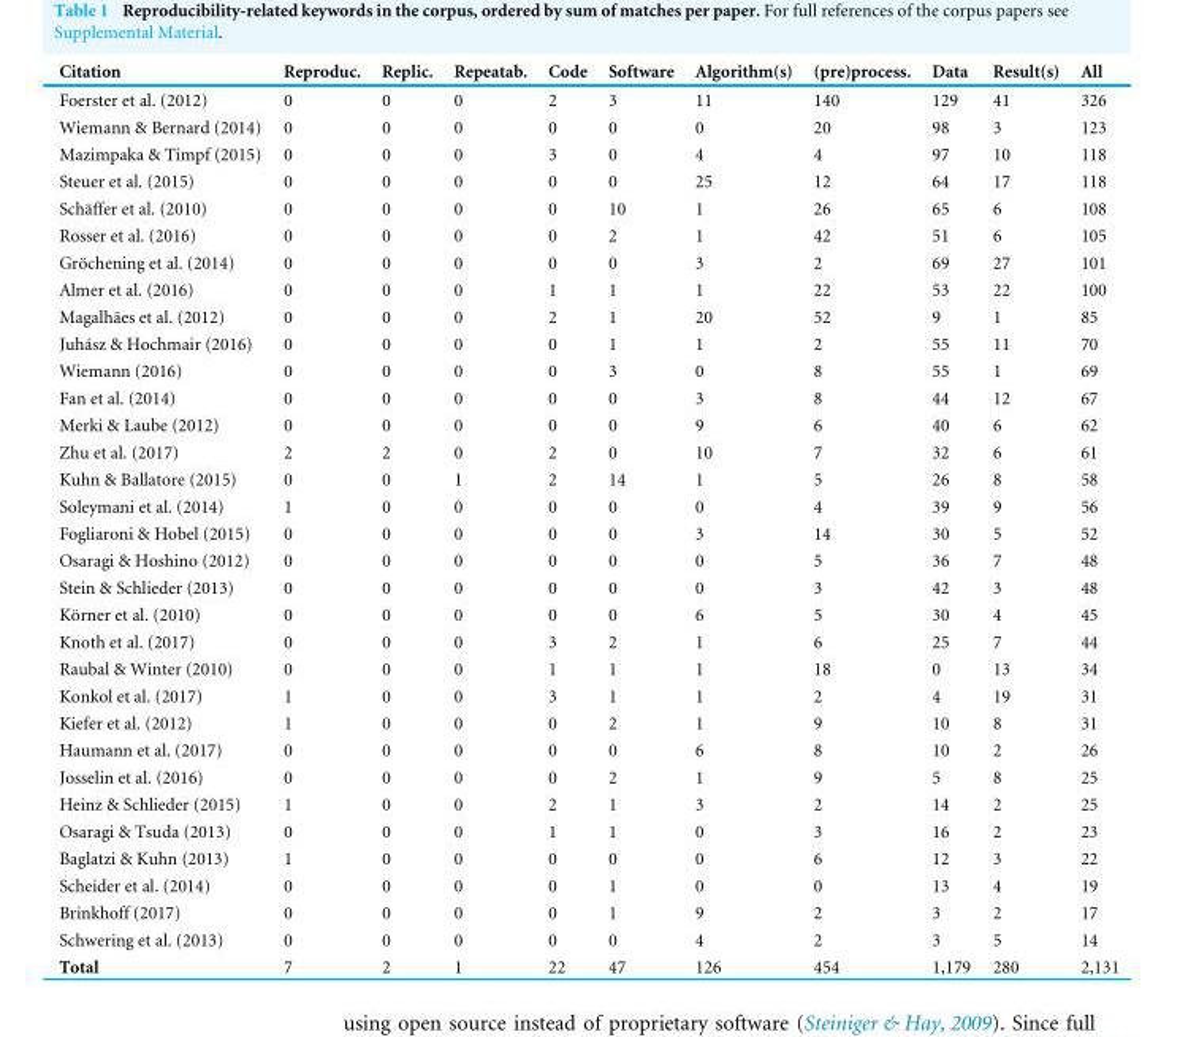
<table><thead><tr><td>Citation</td><td>Reproduc.</td><td>Replic.</td><td>Repeatab.</td><td>Code</td><td>Software</td><td>Algorithm(s)</td><td>(pre)process.</td><td>Data</td><td>Result(s)</td><td>All</td></tr></thead><tbody><tr><td>Foerster et al. (2012)</td><td>0</td><td>0</td><td>0</td><td>2</td><td>3</td><td>11</td><td>140</td><td>129</td><td>41</td><td>326</td></tr><tr><td>Wiemann &amp; Bernard (2014)</td><td>0</td><td>0</td><td>0</td><td>0</td><td>0</td><td>0</td><td>20</td><td>98</td><td>3</td><td>123</td></tr><tr><td>Mazimpaka &amp; Timpf (2015)</td><td>0</td><td>0</td><td>0</td><td>3</td><td>0</td><td>4</td><td>4</td><td>97</td><td>10</td><td>118</td></tr><tr><td>Steuer et al. (2015)</td><td>0</td><td>0</td><td>0</td><td>0</td><td>0</td><td>25</td><td>12</td><td>64</td><td>17</td><td>118</td></tr><tr><td>Schäffer et al. (2010)</td><td>0</td><td>0</td><td>0</td><td>0</td><td>10</td><td>1</td><td>26</td><td>65</td><td>6</td><td>108</td></tr><tr><td>Rosser et al. (2016)</td><td>0</td><td>0</td><td>0</td><td>0</td><td>2</td><td>1</td><td>42</td><td>51</td><td>6</td><td>105</td></tr><tr><td>Gröchening et al. (2014)</td><td>0</td><td>0</td><td>0</td><td>0</td><td>0</td><td>3</td><td>2</td><td>69</td><td>27</td><td>101</td></tr><tr><td>Almer et al. (2016)</td><td>0</td><td>0</td><td>0</td><td>1</td><td>1</td><td>1</td><td>22</td><td>53</td><td>22</td><td>100</td></tr><tr><td>Magalhães et al. (2012)</td><td>0</td><td>0</td><td>0</td><td>2</td><td>1</td><td>20</td><td>52</td><td>9</td><td>1</td><td>85</td></tr><tr><td>Juhász &amp; Hochmair (2016)</td><td>0</td><td>0</td><td>0</td><td>0</td><td>1</td><td>1</td><td>2</td><td>55</td><td>11</td><td>70</td></tr><tr><td>Wiemann (2016)</td><td>0</td><td>0</td><td>0</td><td>0</td><td>3</td><td>0</td><td>8</td><td>55</td><td>1</td><td>69</td></tr><tr><td>Fan et al. (2014)</td><td>0</td><td>0</td><td>0</td><td>0</td><td>0</td><td>3</td><td>8</td><td>44</td><td>12</td><td>67</td></tr><tr><td>Merki &amp; Laube (2012)</td><td>0</td><td>0</td><td>0</td><td>0</td><td>0</td><td>9</td><td>6</td><td>40</td><td>6</td><td>62</td></tr><tr><td>Zhu et al. (2017)</td><td>2</td><td>2</td><td>0</td><td>2</td><td>0</td><td>10</td><td>7</td><td>32</td><td>6</td><td>61</td></tr><tr><td>Kuhn &amp; Ballatore (2015)</td><td>0</td><td>0</td><td>1</td><td>2</td><td>14</td><td>1</td><td>5</td><td>26</td><td>8</td><td>58</td></tr><tr><td>Soleymani et al. (2014)</td><td>1</td><td>0</td><td>0</td><td>0</td><td>0</td><td>0</td><td>4</td><td>39</td><td>9</td><td>56</td></tr><tr><td>Fogliaroni &amp; Hobel (2015)</td><td>0</td><td>0</td><td>0</td><td>0</td><td>0</td><td>3</td><td>14</td><td>30</td><td>5</td><td>52</td></tr><tr><td>Osaragi &amp; Hoshino (2012)</td><td>0</td><td>0</td><td>0</td><td>0</td><td>0</td><td>0</td><td>5</td><td>36</td><td>7</td><td>48</td></tr><tr><td>Stein &amp; Schlieder (2013)</td><td>0</td><td>0</td><td>0</td><td>0</td><td>0</td><td>0</td><td>3</td><td>42</td><td>3</td><td>48</td></tr><tr><td>Körner et al. (2010)</td><td>0</td><td>0</td><td>0</td><td>0</td><td>0</td><td>6</td><td>5</td><td>30</td><td>4</td><td>45</td></tr><tr><td>Knoth et al. (2017)</td><td>0</td><td>0</td><td>0</td><td>3</td><td>2</td><td>1</td><td>6</td><td>25</td><td>7</td><td>44</td></tr><tr><td>Raubal &amp; Winter (2010)</td><td>0</td><td>0</td><td>0</td><td>1</td><td>1</td><td>1</td><td>18</td><td>0</td><td>13</td><td>34</td></tr><tr><td>Konkol et al. (2017)</td><td>1</td><td>0</td><td>0</td><td>3</td><td>1</td><td>1</td><td>2</td><td>4</td><td>19</td><td>31</td></tr><tr><td>Kiefer et al. (2012)</td><td>1</td><td>0</td><td>0</td><td>0</td><td>2</td><td>1</td><td>9</td><td>10</td><td>8</td><td>31</td></tr><tr><td>Haumann et al. (2017)</td><td>0</td><td>0</td><td>0</td><td>0</td><td>0</td><td>6</td><td>8</td><td>10</td><td>2</td><td>26</td></tr><tr><td>Josselin et al. (2016)</td><td>0</td><td>0</td><td>0</td><td>0</td><td>2</td><td>1</td><td>9</td><td>5</td><td>8</td><td>25</td></tr><tr><td>Heinz &amp; Schlieder (2015)</td><td>1</td><td>0</td><td>0</td><td>2</td><td>1</td><td>3</td><td>2</td><td>14</td><td>2</td><td>25</td></tr><tr><td>Osaragi &amp; Tsuda (2013)</td><td>0</td><td>0</td><td>0</td><td>1</td><td>1</td><td>0</td><td>3</td><td>16</td><td>2</td><td>23</td></tr><tr><td>Baglatzi &amp; Kuhn (2013)</td><td>1</td><td>0</td><td>0</td><td>0</td><td>0</td><td>0</td><td>6</td><td>12</td><td>3</td><td>22</td></tr><tr><td>Scheider et al. (2014)</td><td>0</td><td>0</td><td>0</td><td>0</td><td>1</td><td>0</td><td>0</td><td>13</td><td>4</td><td>19</td></tr><tr><td>Brinkhoff (2017)</td><td>0</td><td>0</td><td>0</td><td>0</td><td>1</td><td>9</td><td>2</td><td>3</td><td>2</td><td>17</td></tr><tr><td>Schwering et al. (2013)</td><td>0</td><td>0</td><td>0</td><td>0</td><td>0</td><td>4</td><td>2</td><td>3</td><td>5</td><td>14</td></tr><tr><td>Total</td><td>7</td><td>2</td><td>1</td><td>22</td><td>47</td><td>126</td><td>454</td><td>1,179</td><td>280</td><td>2,131</td></tr></tbody></table>